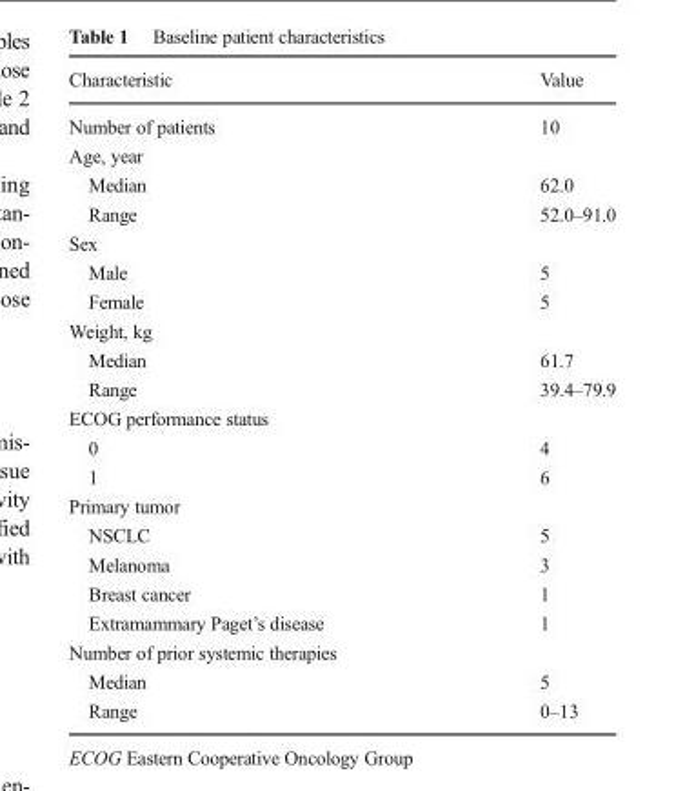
<table><thead><tr><td>Characteristic</td><td>Value</td></tr></thead><tbody><tr><td>Number of patients</td><td>10</td></tr><tr><td colspan="2">Age, year</td></tr><tr><td>Median</td><td>62.0</td></tr><tr><td>Range</td><td>52.0–91.0</td></tr><tr><td colspan="2">Sex</td></tr><tr><td>Male</td><td>5</td></tr><tr><td>Female</td><td>5</td></tr><tr><td colspan="2">Weight, kg</td></tr><tr><td>Median</td><td>61.7</td></tr><tr><td>Range</td><td>39.4–79.9</td></tr><tr><td colspan="2">ECOG performance status</td></tr><tr><td>0</td><td>4</td></tr><tr><td>1</td><td>6</td></tr><tr><td colspan="2">Primary tumor</td></tr><tr><td>NSCLC</td><td>5</td></tr><tr><td>Melanoma</td><td>3</td></tr><tr><td>Breast cancer</td><td>1</td></tr><tr><td>Extramammary Paget’s disease</td><td>1</td></tr><tr><td colspan="2">Number of prior systemic therapies</td></tr><tr><td>Median</td><td>5</td></tr><tr><td>Range</td><td>0–13</td></tr></tbody></table>